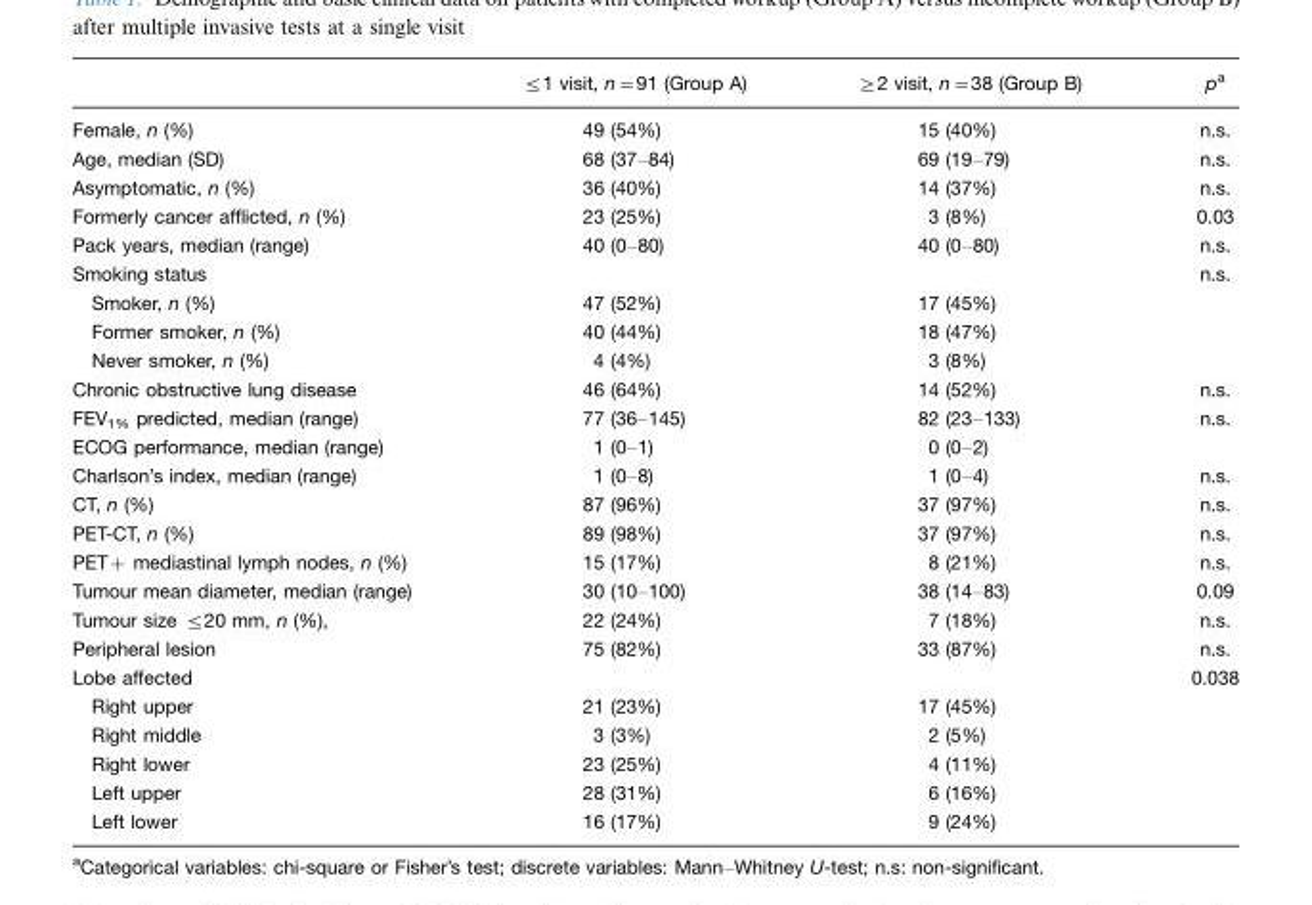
<table><thead><tr><td></td><td>≤1 visit, n=91 (Group A)</td><td>≥2 visit, n=38 (Group B)</td><td>p<sup>a</sup></td></tr></thead><tbody><tr><td>Female, n (%)</td><td>49 (54%)</td><td>15 (40%)</td><td>n.s.</td></tr><tr><td>Age, median (SD)</td><td>68 (37–84)</td><td>69 (19–79)</td><td>n.s.</td></tr><tr><td>Asymptomatic, n (%)</td><td>36 (40%)</td><td>14 (37%)</td><td>n.s.</td></tr><tr><td>Formerly cancer afflicted, n (%)</td><td>23 (25%)</td><td>3 (8%)</td><td>0.03</td></tr><tr><td>Pack years, median (range)</td><td>40 (0–80)</td><td>40 (0–80)</td><td>n.s.</td></tr><tr><td>Smoking status</td><td></td><td></td><td>n.s.</td></tr><tr><td>Smoker, n (%)</td><td>47 (52%)</td><td>17 (45%)</td><td></td></tr><tr><td>Former smoker, n (%)</td><td>40 (44%)</td><td>18 (47%)</td><td></td></tr><tr><td>Never smoker, n (%)</td><td>4 (4%)</td><td>3 (8%)</td><td></td></tr><tr><td>Chronic obstructive lung disease</td><td>46 (64%)</td><td>14 (52%)</td><td>n.s.</td></tr><tr><td>FEV<sub>1%</sub> predicted, median (range)</td><td>77 (36–145)</td><td>82 (23–133)</td><td>n.s.</td></tr><tr><td>ECOG performance, median (range)</td><td>1 (0–1)</td><td>0 (0–2)</td><td></td></tr><tr><td>Charlson’s index, median (range)</td><td>1 (0–8)</td><td>1 (0–4)</td><td>n.s.</td></tr><tr><td>CT, n (%)</td><td>87 (96%)</td><td>37 (97%)</td><td>n.s.</td></tr><tr><td>PET-CT, n (%)</td><td>89 (98%)</td><td>37 (97%)</td><td>n.s.</td></tr><tr><td>PET+ mediastinal lymph nodes, n (%)</td><td>15 (17%)</td><td>8 (21%)</td><td>n.s.</td></tr><tr><td>Tumour mean diameter, median (range)</td><td>30 (10–100)</td><td>38 (14–83)</td><td>0.09</td></tr><tr><td>Tumour size ≤20 mm, n (%),</td><td>22 (24%)</td><td>7 (18%)</td><td>n.s.</td></tr><tr><td>Peripheral lesion</td><td>75 (82%)</td><td>33 (87%)</td><td>n.s.</td></tr><tr><td>Lobe affected</td><td></td><td></td><td>0.038</td></tr><tr><td>Right upper</td><td>21 (23%)</td><td>17 (45%)</td><td></td></tr><tr><td>Right middle</td><td>3 (3%)</td><td>2 (5%)</td><td></td></tr><tr><td>Right lower</td><td>23 (25%)</td><td>4 (11%)</td><td></td></tr><tr><td>Left upper</td><td>28 (31%)</td><td>6 (16%)</td><td></td></tr><tr><td>Left lower</td><td>16 (17%)</td><td>9 (24%)</td><td></td></tr></tbody></table>